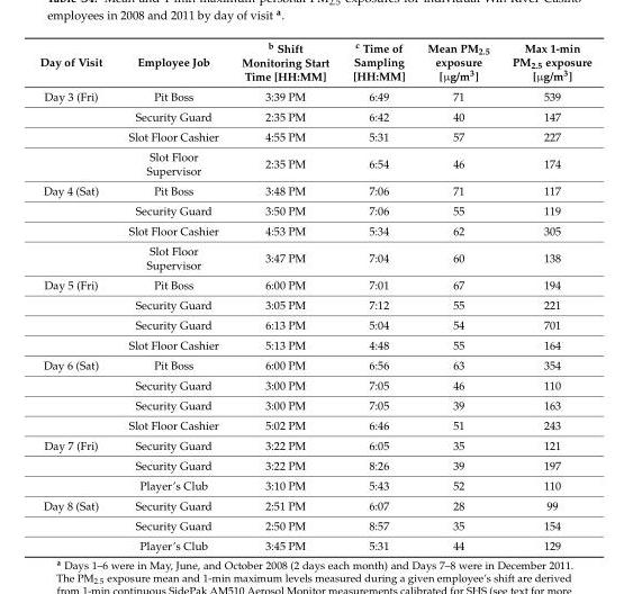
<table><thead><tr><td>Day of Visit</td><td>Employee Job</td><td><sup>b</sup> Shift Monitoring Start Time [HH:MM]</td><td><sup>c</sup> Time of Sampling [HH:MM]</td><td>Mean PM<sub>2.5</sub> exposure [µg/m<sup>3</sup>]</td><td>Max 1-min PM<sub>2.5</sub> exposure [µg/m<sup>3</sup>]</td></tr></thead><tbody><tr><td rowspan="4">Day 3 (Fri)</td><td>Pit Boss</td><td>3:39 PM</td><td>6:49</td><td>71</td><td>539</td></tr><tr><td>Security Guard</td><td>2:35 PM</td><td>6:42</td><td>40</td><td>147</td></tr><tr><td>Slot Floor Cashier</td><td>4:55 PM</td><td>5:31</td><td>57</td><td>227</td></tr><tr><td>Slot Floor Supervisor</td><td>2:35 PM</td><td>6:54</td><td>46</td><td>174</td></tr><tr><td rowspan="4">Day 4 (Sat)</td><td>Pit Boss</td><td>3:48 PM</td><td>7:06</td><td>71</td><td>117</td></tr><tr><td>Security Guard</td><td>3:50 PM</td><td>7:06</td><td>55</td><td>119</td></tr><tr><td>Slot Floor Cashier</td><td>4:53 PM</td><td>5:34</td><td>62</td><td>305</td></tr><tr><td>Slot Floor Supervisor</td><td>3:47 PM</td><td>7:04</td><td>60</td><td>138</td></tr><tr><td rowspan="4">Day 5 (Fri)</td><td>Pit Boss</td><td>6:00 PM</td><td>7:01</td><td>67</td><td>194</td></tr><tr><td>Security Guard</td><td>3:05 PM</td><td>7:12</td><td>55</td><td>221</td></tr><tr><td>Security Guard</td><td>6:13 PM</td><td>5:04</td><td>54</td><td>701</td></tr><tr><td>Slot Floor Cashier</td><td>5:13 PM</td><td>4:48</td><td>55</td><td>164</td></tr><tr><td rowspan="4">Day 6 (Sat)</td><td>Pit Boss</td><td>6:00 PM</td><td>6:56</td><td>63</td><td>354</td></tr><tr><td>Security Guard</td><td>3:00 PM</td><td>7:05</td><td>46</td><td>110</td></tr><tr><td>Security Guard</td><td>3:00 PM</td><td>7:05</td><td>39</td><td>163</td></tr><tr><td>Slot Floor Cashier</td><td>5:02 PM</td><td>6:46</td><td>51</td><td>243</td></tr><tr><td rowspan="3">Day 7 (Fri)</td><td>Security Guard</td><td>3:22 PM</td><td>6:05</td><td>35</td><td>121</td></tr><tr><td>Security Guard</td><td>3:22 PM</td><td>8:26</td><td>39</td><td>197</td></tr><tr><td>Player’s Club</td><td>3:10 PM</td><td>5:43</td><td>52</td><td>110</td></tr><tr><td rowspan="3">Day 8 (Sat)</td><td>Security Guard</td><td>2:51 PM</td><td>6:07</td><td>28</td><td>99</td></tr><tr><td>Security Guard</td><td>2:50 PM</td><td>8:57</td><td>35</td><td>154</td></tr><tr><td>Player’s Club</td><td>3:45 PM</td><td>5:31</td><td>44</td><td>129</td></tr></tbody></table>